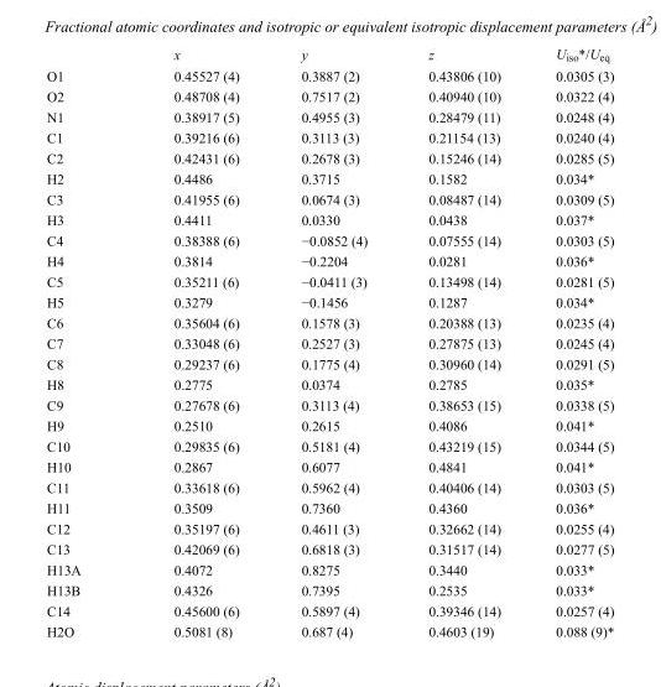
<table><thead><tr><td></td><td>x</td><td>y</td><td>z</td><td>U<sub>iso</sub>*/U<sub>eq</sub></td></tr></thead><tbody><tr><td>O1</td><td>0.45527 (4)</td><td>0.3887 (2)</td><td>0.43806 (10)</td><td>0.0305 (3)</td></tr><tr><td>O2</td><td>0.48708 (4)</td><td>0.7517 (2)</td><td>0.40940 (10)</td><td>0.0322 (4)</td></tr><tr><td>N1</td><td>0.38917 (5)</td><td>0.4955 (3)</td><td>0.28479 (11)</td><td>0.0248 (4)</td></tr><tr><td>C1</td><td>0.39216 (6)</td><td>0.3113 (3)</td><td>0.21154 (13)</td><td>0.0240 (4)</td></tr><tr><td>C2</td><td>0.42431 (6)</td><td>0.2678 (3)</td><td>0.15246 (14)</td><td>0.0285 (5)</td></tr><tr><td>H2</td><td>0.4486</td><td>0.3715</td><td>0.1582</td><td>0.034*</td></tr><tr><td>C3</td><td>0.41955 (6)</td><td>0.0674 (3)</td><td>0.08487 (14)</td><td>0.0309 (5)</td></tr><tr><td>H3</td><td>0.4411</td><td>0.0330</td><td>0.0438</td><td>0.037*</td></tr><tr><td>C4</td><td>0.38388 (6)</td><td>−0.0852 (4)</td><td>0.07555 (14)</td><td>0.0303 (5)</td></tr><tr><td>H4</td><td>0.3814</td><td>−0.2204</td><td>0.0281</td><td>0.036*</td></tr><tr><td>C5</td><td>0.35211 (6)</td><td>−0.0411 (3)</td><td>0.13498 (14)</td><td>0.0281 (5)</td></tr><tr><td>H5</td><td>0.3279</td><td>−0.1456</td><td>0.1287</td><td>0.034*</td></tr><tr><td>C6</td><td>0.35604 (6)</td><td>0.1578 (3)</td><td>0.20388 (13)</td><td>0.0235 (4)</td></tr><tr><td>C7</td><td>0.33048 (6)</td><td>0.2527 (3)</td><td>0.27875 (13)</td><td>0.0245 (4)</td></tr><tr><td>C8</td><td>0.29237 (6)</td><td>0.1775 (4)</td><td>0.30960 (14)</td><td>0.0291 (5)</td></tr><tr><td>H8</td><td>0.2775</td><td>0.0374</td><td>0.2785</td><td>0.035*</td></tr><tr><td>C9</td><td>0.27678 (6)</td><td>0.3113 (4)</td><td>0.38653 (15)</td><td>0.0338 (5)</td></tr><tr><td>H9</td><td>0.2510</td><td>0.2615</td><td>0.4086</td><td>0.041*</td></tr><tr><td>C10</td><td>0.29835 (6)</td><td>0.5181 (4)</td><td>0.43219 (15)</td><td>0.0344 (5)</td></tr><tr><td>H10</td><td>0.2867</td><td>0.6077</td><td>0.4841</td><td>0.041*</td></tr><tr><td>C11</td><td>0.33618 (6)</td><td>0.5962 (4)</td><td>0.40406 (14)</td><td>0.0303 (5)</td></tr><tr><td>H11</td><td>0.3509</td><td>0.7360</td><td>0.4360</td><td>0.036*</td></tr><tr><td>C12</td><td>0.35197 (6)</td><td>0.4611 (3)</td><td>0.32662 (14)</td><td>0.0255 (4)</td></tr><tr><td>C13</td><td>0.42069 (6)</td><td>0.6818 (3)</td><td>0.31517 (14)</td><td>0.0277 (5)</td></tr><tr><td>H13A</td><td>0.4072</td><td>0.8275</td><td>0.3440</td><td>0.033*</td></tr><tr><td>H13B</td><td>0.4326</td><td>0.7395</td><td>0.2535</td><td>0.033*</td></tr><tr><td>C14</td><td>0.45600 (6)</td><td>0.5897 (4)</td><td>0.39346 (14)</td><td>0.0257 (4)</td></tr><tr><td>H2O</td><td>0.5081 (8)</td><td>0.687 (4)</td><td>0.4603 (19)</td><td>0.088 (9)*</td></tr></tbody></table>